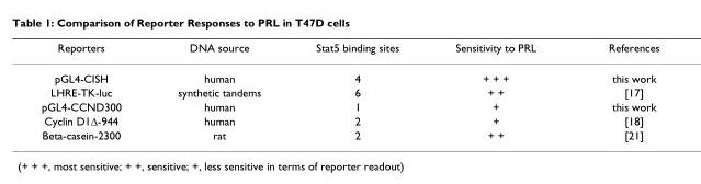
<table><thead><tr><td>Reporters</td><td>DNA source</td><td>Stat5 binding sites</td><td>Sensitivity to PRL</td><td>References</td></tr></thead><tbody><tr><td>pGL4-CISH</td><td>human</td><td>4</td><td>+ + +</td><td>this work</td></tr><tr><td>LHRE-TK-luc</td><td>synthetic tandems</td><td>6</td><td>+ +</td><td>[17]</td></tr><tr><td>pGL4-CCND300</td><td>human</td><td>1</td><td>+</td><td>this work</td></tr><tr><td>Cyclin D1∆-944</td><td>human</td><td>2</td><td>+</td><td>[18]</td></tr><tr><td>Beta-casein-2300</td><td>rat</td><td>2</td><td>+ +</td><td>[21]</td></tr></tbody></table>